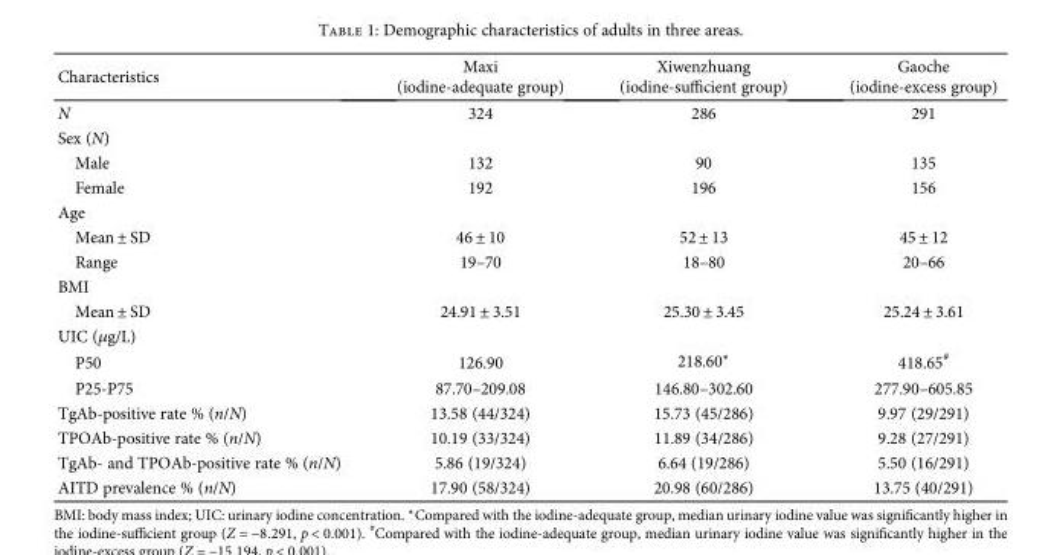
<table><thead><tr><td>Characteristics</td><td>Maxi (iodine-adequate group)</td><td>Xiwenzhuang (iodine-sufficient group)</td><td>Gaoche (iodine-excess group)</td></tr></thead><tbody><tr><td>N</td><td>324</td><td>286</td><td>291</td></tr><tr><td colspan="4">Sex (N)</td></tr><tr><td>Male</td><td>132</td><td>90</td><td>135</td></tr><tr><td>Female</td><td>192</td><td>196</td><td>156</td></tr><tr><td colspan="4">Age</td></tr><tr><td>Mean ± SD</td><td>46 ± 10</td><td>52 ± 13</td><td>45 ± 12</td></tr><tr><td>Range</td><td>19–70</td><td>18–80</td><td>20–66</td></tr><tr><td colspan="4">BMI</td></tr><tr><td>Mean ± SD</td><td>24.91 ± 3.51</td><td>25.30 ± 3.45</td><td>25.24 ± 3.61</td></tr><tr><td colspan="4">UIC (μg/L)</td></tr><tr><td>P50</td><td>126.90</td><td>218.60∗</td><td>418.65<sup>#</sup></td></tr><tr><td>P25-P75</td><td>87.70–209.08</td><td>146.80–302.60</td><td>277.90–605.85</td></tr><tr><td>TgAb-positive rate % (n/N)</td><td>13.58 (44/324)</td><td>15.73 (45/286)</td><td>9.97 (29/291)</td></tr><tr><td>TPOAb-positive rate % (n/N)</td><td>10.19 (33/324)</td><td>11.89 (34/286)</td><td>9.28 (27/291)</td></tr><tr><td>TgAb- and TPOAb-positive rate % (n/N)</td><td>5.86 (19/324)</td><td>6.64 (19/286)</td><td>5.50 (16/291)</td></tr><tr><td>AITD prevalence % (n/N)</td><td>17.90 (58/324)</td><td>20.98 (60/286)</td><td>13.75 (40/291)</td></tr></tbody></table>